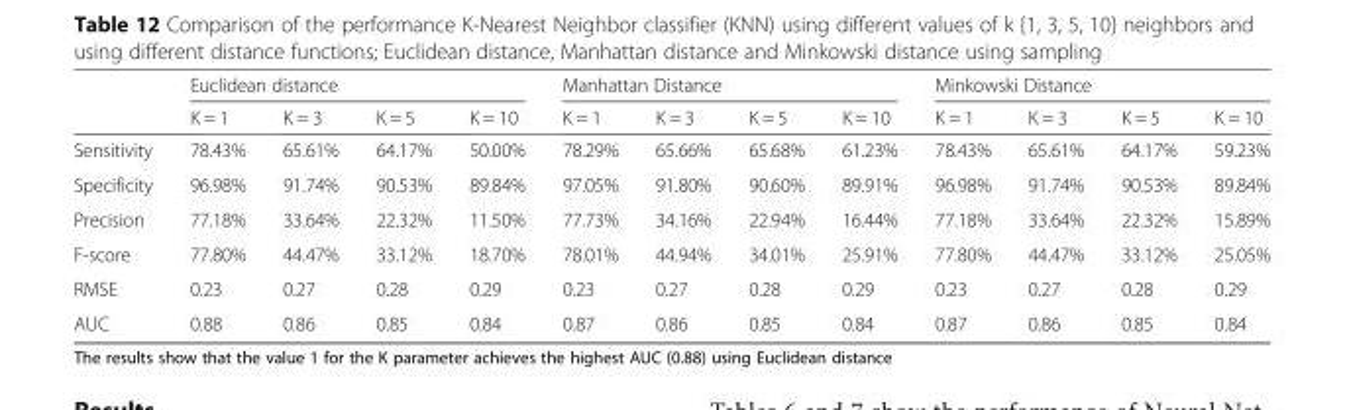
<table><thead><tr><td rowspan="2"></td><td colspan="4">Euclidean distance</td><td colspan="4">Manhattan Distance</td><td colspan="4">Minkowski Distance</td></tr><tr><td>K = 1</td><td>K = 3</td><td>K = 5</td><td>K = 10</td><td>K = 1</td><td>K = 3</td><td>K = 5</td><td>K = 10</td><td>K = 1</td><td>K = 3</td><td>K = 5</td><td>K = 10</td></tr></thead><tbody><tr><td>Sensitivity</td><td>78.43%</td><td>65.61%</td><td>64.17%</td><td>50.00%</td><td>78.29%</td><td>65.66%</td><td>65.68%</td><td>61.23%</td><td>78.43%</td><td>65.61%</td><td>64.17%</td><td>59.23%</td></tr><tr><td>Specificity</td><td>96.98%</td><td>91.74%</td><td>90.53%</td><td>89.84%</td><td>97.05%</td><td>91.80%</td><td>90.60%</td><td>89.91%</td><td>96.98%</td><td>91.74%</td><td>90.53%</td><td>89.84%</td></tr><tr><td>Precision</td><td>77.18%</td><td>33.64%</td><td>22.32%</td><td>11.50%</td><td>77.73%</td><td>34.16%</td><td>22.94%</td><td>16.44%</td><td>77.18%</td><td>33.64%</td><td>22.32%</td><td>15.89%</td></tr><tr><td>F-score</td><td>77.80%</td><td>44.47%</td><td>33.12%</td><td>18.70%</td><td>78.01%</td><td>44.94%</td><td>34.01%</td><td>25.91%</td><td>77.80%</td><td>44.47%</td><td>33.12%</td><td>25.05%</td></tr><tr><td>RMSE</td><td>0.23</td><td>0.27</td><td>0.28</td><td>0.29</td><td>0.23</td><td>0.27</td><td>0.28</td><td>0.29</td><td>0.23</td><td>0.27</td><td>0.28</td><td>0.29</td></tr><tr><td>AUC</td><td>0.88</td><td>0.86</td><td>0.85</td><td>0.84</td><td>0.87</td><td>0.86</td><td>0.85</td><td>0.84</td><td>0.87</td><td>0.86</td><td>0.85</td><td>0.84</td></tr></tbody></table>